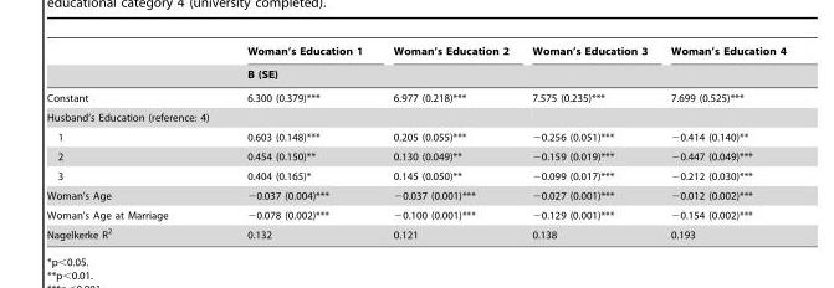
<table><thead><tr><td rowspan="2"></td><td>Woman’s Education 1</td><td>Woman’s Education 2</td><td>Woman’s Education 3</td><td>Woman’s Education 4</td></tr><tr><td colspan="4">B (SE)</td></tr></thead><tbody><tr><td>Constant</td><td>6.300 (0.379)***</td><td>6.977 (0.218)***</td><td>7.575 (0.235)***</td><td>7.699 (0.525)***</td></tr><tr><td colspan="5">Husband’s Education (reference: 4)</td></tr><tr><td>1</td><td>0.603 (0.148)***</td><td>0.205 (0.055)***</td><td>−0.256 (0.051)***</td><td>−0.414 (0.140)**</td></tr><tr><td>2</td><td>0.454 (0.150)**</td><td>0.130 (0.049)**</td><td>−0.159 (0.019)***</td><td>−0.447 (0.049)***</td></tr><tr><td>3</td><td>0.404 (0.165)*</td><td>0.145 (0.050)**</td><td>−0.099 (0.017)***</td><td>−0.212 (0.030)***</td></tr><tr><td>Woman’s Age</td><td>−0.037 (0.004)***</td><td>−0.037 (0.001)***</td><td>−0.027 (0.001)***</td><td>−0.012 (0.002)***</td></tr><tr><td>Woman’s Age at Marriage</td><td>−0.078 (0.002)***</td><td>−0.100 (0.001)***</td><td>−0.129 (0.001)***</td><td>−0.154 (0.002)***</td></tr><tr><td>Nagelkerke R<sup>2</sup></td><td>0.132</td><td>0.121</td><td>0.138</td><td>0.193</td></tr></tbody></table>